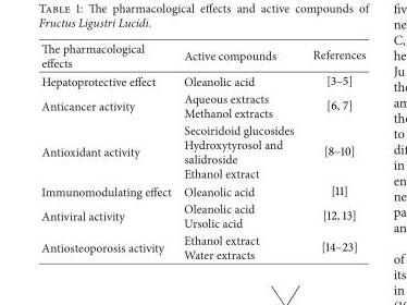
<table><thead><tr><td>The pharmacological effects</td><td>Active compounds</td><td>References</td></tr></thead><tbody><tr><td>Hepatoprotective effect</td><td>Oleanolic acid</td><td>[3–5]</td></tr><tr><td>Anticancer activity</td><td>Aqueous extracts Methanol extracts</td><td>[6, 7]</td></tr><tr><td>Antioxidant activity</td><td>Secoiridoid glucosides Hydroxytyrosol and salidroside Ethanol extract</td><td>[8–10]</td></tr><tr><td>Immunomodulating effect</td><td>Oleanolic acid</td><td>[11]</td></tr><tr><td>Antiviral activity</td><td>Oleanolic acid Ursolic acid</td><td>[12, 13]</td></tr><tr><td>Antiosteoporosis activity</td><td>Ethanol extract Water extracts</td><td>[14–23]</td></tr></tbody></table>